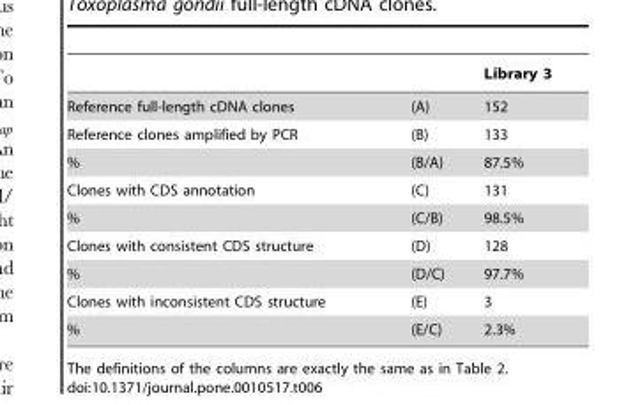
<table><thead><tr><td></td><td></td><td>Library 3</td></tr></thead><tbody><tr><td>Reference full-length cDNA clones</td><td>(A)</td><td>152</td></tr><tr><td>Reference clones amplified by PCR</td><td>(B)</td><td>133</td></tr><tr><td>%</td><td>(B/A)</td><td>87.5%</td></tr><tr><td>Clones with CDS annotation</td><td>(C)</td><td>131</td></tr><tr><td>%</td><td>(C/B)</td><td>98.5%</td></tr><tr><td>Clones with consistent CDS structure</td><td>(D)</td><td>128</td></tr><tr><td>%</td><td>(D/C)</td><td>97.7%</td></tr><tr><td>Clones with inconsistent CDS structure</td><td>(E)</td><td>3</td></tr><tr><td>%</td><td>(E/C)</td><td>2.3%</td></tr></tbody></table>